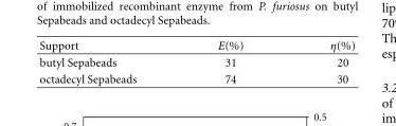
<table><thead><tr><td>Support</td><td>E(%)</td><td>η(%)</td></tr></thead><tbody><tr><td>butyl Sepabeads</td><td>31</td><td>20</td></tr><tr><td>octadecyl Sepabeads</td><td>74</td><td>30</td></tr></tbody></table>